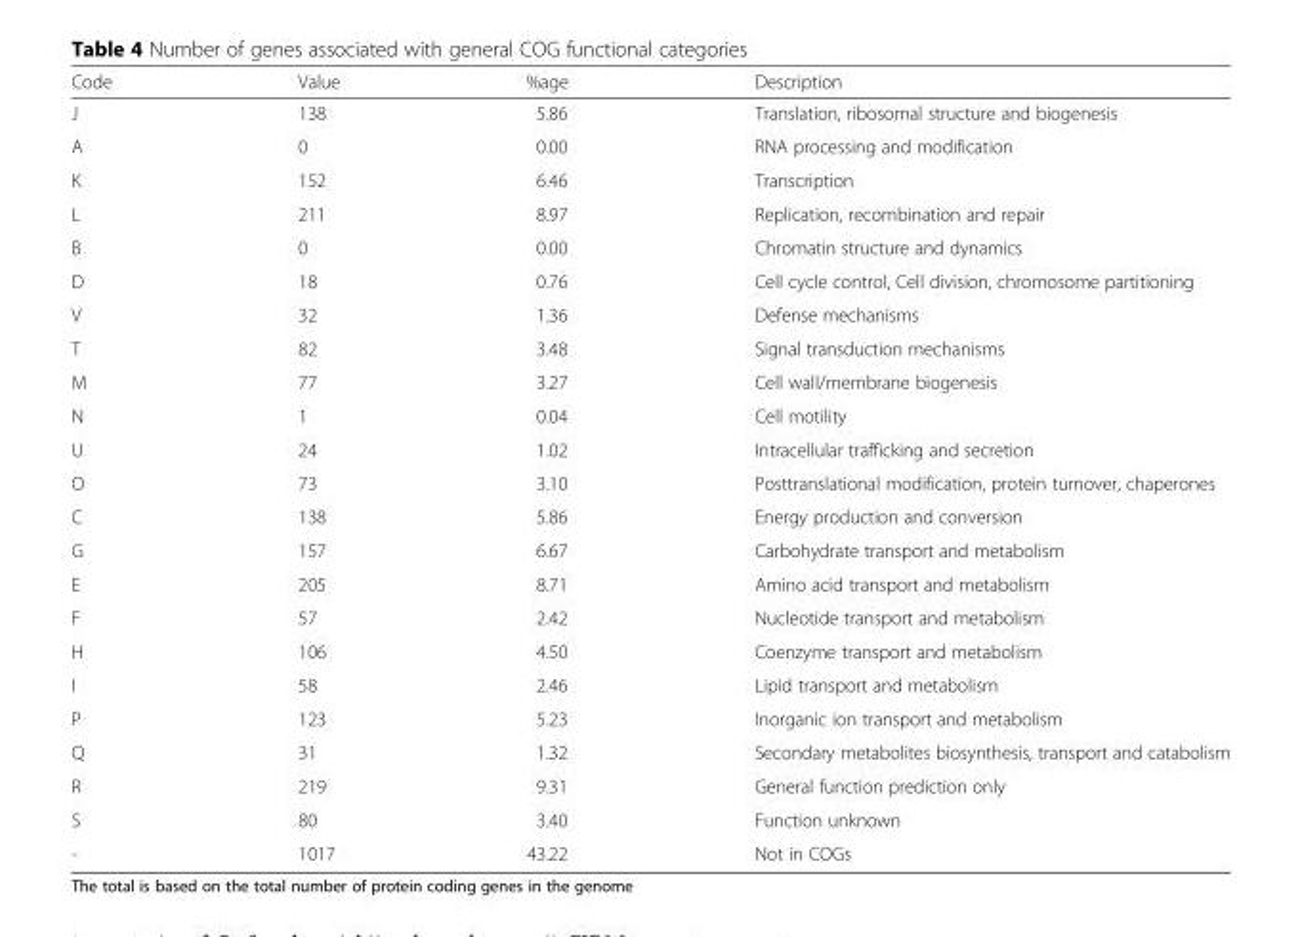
<table><thead><tr><td>Code</td><td>Value</td><td>%age</td><td>Description</td></tr></thead><tbody><tr><td>J</td><td>138</td><td>5.86</td><td>Translation, ribosomal structure and biogenesis</td></tr><tr><td>A</td><td>0</td><td>0.00</td><td>RNA processing and modification</td></tr><tr><td>K</td><td>152</td><td>6.46</td><td>Transcription</td></tr><tr><td>L</td><td>211</td><td>8.97</td><td>Replication, recombination and repair</td></tr><tr><td>B</td><td>0</td><td>0.00</td><td>Chromatin structure and dynamics</td></tr><tr><td>D</td><td>18</td><td>0.76</td><td>Cell cycle control, Cell division, chromosome partitioning</td></tr><tr><td>V</td><td>32</td><td>1.36</td><td>Defense mechanisms</td></tr><tr><td>T</td><td>82</td><td>3.48</td><td>Signal transduction mechanisms</td></tr><tr><td>M</td><td>77</td><td>3.27</td><td>Cell wall/membrane biogenesis</td></tr><tr><td>N</td><td>1</td><td>0.04</td><td>Cell motility</td></tr><tr><td>U</td><td>24</td><td>1.02</td><td>Intracellular trafficking and secretion</td></tr><tr><td>O</td><td>73</td><td>3.10</td><td>Posttranslational modification, protein turnover, chaperones</td></tr><tr><td>C</td><td>138</td><td>5.86</td><td>Energy production and conversion</td></tr><tr><td>G</td><td>157</td><td>6.67</td><td>Carbohydrate transport and metabolism</td></tr><tr><td>E</td><td>205</td><td>8.71</td><td>Amino acid transport and metabolism</td></tr><tr><td>F</td><td>57</td><td>2.42</td><td>Nucleotide transport and metabolism</td></tr><tr><td>H</td><td>106</td><td>4.50</td><td>Coenzyme transport and metabolism</td></tr><tr><td>I</td><td>58</td><td>2.46</td><td>Lipid transport and metabolism</td></tr><tr><td>P</td><td>123</td><td>5.23</td><td>Inorganic ion transport and metabolism</td></tr><tr><td>Q</td><td>31</td><td>1.32</td><td>Secondary metabolites biosynthesis, transport and catabolism</td></tr><tr><td>R</td><td>219</td><td>9.31</td><td>General function prediction only</td></tr><tr><td>S</td><td>80</td><td>3.40</td><td>Function unknown</td></tr><tr><td>-</td><td>1017</td><td>43.22</td><td>Not in COGs</td></tr></tbody></table>